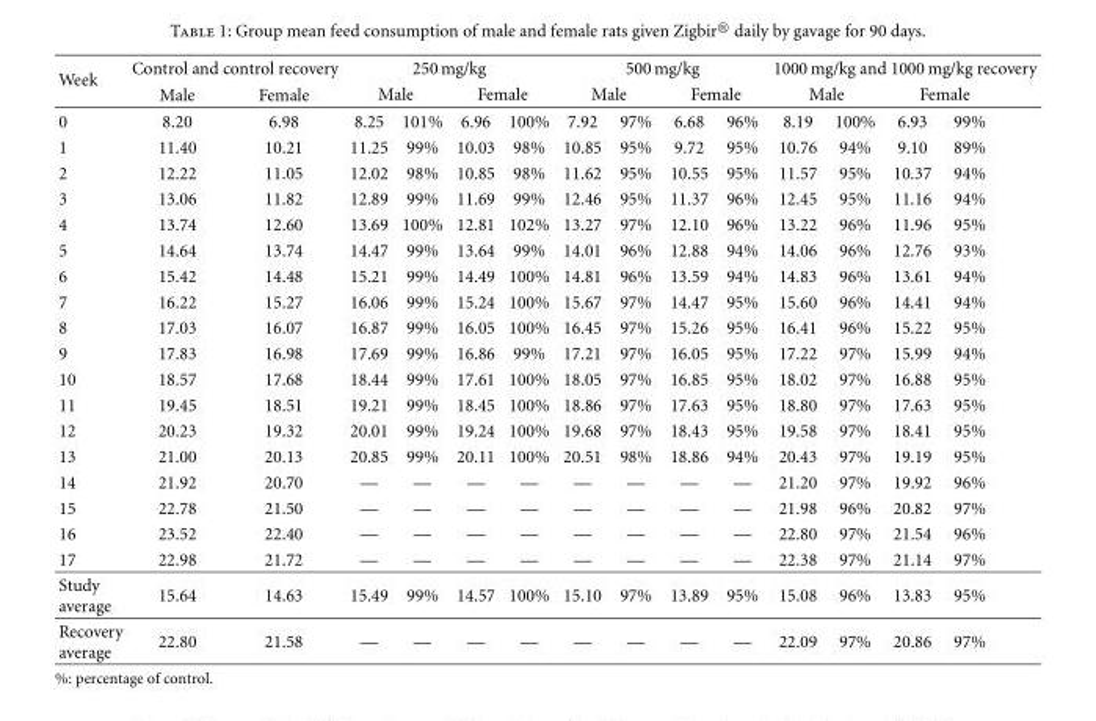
<table><thead><tr><td rowspan="3">Week 0</td><td colspan="2">Control and control recovery</td><td colspan="4">250 mg/kg</td><td colspan="4">500 mg/kg</td><td colspan="4">1000 mg/kg and 1000 mg/kg recovery</td></tr><tr><td rowspan="2">Male 8.20</td><td rowspan="2">Female 6.98</td><td colspan="2">Male</td><td colspan="2">Female</td><td colspan="2">Male</td><td colspan="2">Female</td><td colspan="2">Male</td><td colspan="2">Female</td></tr><tr><td>8.25</td><td>101%</td><td>6.96</td><td>100%</td><td>7.92</td><td>97%</td><td>6.68</td><td>96%</td><td>8.19</td><td>100%</td><td>6.93</td><td>99%</td></tr></thead><tbody><tr><td>1</td><td>11.40</td><td>10.21</td><td>11.25</td><td>99%</td><td>10.03</td><td>98%</td><td>10.85</td><td>95%</td><td>9.72</td><td>95%</td><td>10.76</td><td>94%</td><td>9.10</td><td>89%</td></tr><tr><td>2</td><td>12.22</td><td>11.05</td><td>12.02</td><td>98%</td><td>10.85</td><td>98%</td><td>11.62</td><td>95%</td><td>10.55</td><td>95%</td><td>11.57</td><td>95%</td><td>10.37</td><td>94%</td></tr><tr><td>3</td><td>13.06</td><td>11.82</td><td>12.89</td><td>99%</td><td>11.69</td><td>99%</td><td>12.46</td><td>95%</td><td>11.37</td><td>96%</td><td>12.45</td><td>95%</td><td>11.16</td><td>94%</td></tr><tr><td>4</td><td>13.74</td><td>12.60</td><td>13.69</td><td>100%</td><td>12.81</td><td>102%</td><td>13.27</td><td>97%</td><td>12.10</td><td>96%</td><td>13.22</td><td>96%</td><td>11.96</td><td>95%</td></tr><tr><td>5</td><td>14.64</td><td>13.74</td><td>14.47</td><td>99%</td><td>13.64</td><td>99%</td><td>14.01</td><td>96%</td><td>12.88</td><td>94%</td><td>14.06</td><td>96%</td><td>12.76</td><td>93%</td></tr><tr><td>6</td><td>15.42</td><td>14.48</td><td>15.21</td><td>99%</td><td>14.49</td><td>100%</td><td>14.81</td><td>96%</td><td>13.59</td><td>94%</td><td>14.83</td><td>96%</td><td>13.61</td><td>94%</td></tr><tr><td>7</td><td>16.22</td><td>15.27</td><td>16.06</td><td>99%</td><td>15.24</td><td>100%</td><td>15.67</td><td>97%</td><td>14.47</td><td>95%</td><td>15.60</td><td>96%</td><td>14.41</td><td>94%</td></tr><tr><td>8</td><td>17.03</td><td>16.07</td><td>16.87</td><td>99%</td><td>16.05</td><td>100%</td><td>16.45</td><td>97%</td><td>15.26</td><td>95%</td><td>16.41</td><td>96%</td><td>15.22</td><td>95%</td></tr><tr><td>9</td><td>17.83</td><td>16.98</td><td>17.69</td><td>99%</td><td>16.86</td><td>99%</td><td>17.21</td><td>97%</td><td>16.05</td><td>95%</td><td>17.22</td><td>97%</td><td>15.99</td><td>94%</td></tr><tr><td>10</td><td>18.57</td><td>17.68</td><td>18.44</td><td>99%</td><td>17.61</td><td>100%</td><td>18.05</td><td>97%</td><td>16.85</td><td>95%</td><td>18.02</td><td>97%</td><td>16.88</td><td>95%</td></tr><tr><td>11</td><td>19.45</td><td>18.51</td><td>19.21</td><td>99%</td><td>18.45</td><td>100%</td><td>18.86</td><td>97%</td><td>17.63</td><td>95%</td><td>18.80</td><td>97%</td><td>17.63</td><td>95%</td></tr><tr><td>12</td><td>20.23</td><td>19.32</td><td>20.01</td><td>99%</td><td>19.24</td><td>100%</td><td>19.68</td><td>97%</td><td>18.43</td><td>95%</td><td>19.58</td><td>97%</td><td>18.41</td><td>95%</td></tr><tr><td>13</td><td>21.00</td><td>20.13</td><td>20.85</td><td>99%</td><td>20.11</td><td>100%</td><td>20.51</td><td>98%</td><td>18.86</td><td>94%</td><td>20.43</td><td>97%</td><td>19.19</td><td>95%</td></tr><tr><td>14</td><td>21.92</td><td>20.70</td><td>—</td><td>—</td><td>—</td><td>—</td><td>—</td><td>—</td><td>—</td><td>—</td><td>21.20</td><td>97%</td><td>19.92</td><td>96%</td></tr><tr><td>15</td><td>22.78</td><td>21.50</td><td>—</td><td>—</td><td>—</td><td>—</td><td>—</td><td>—</td><td>—</td><td>—</td><td>21.98</td><td>96%</td><td>20.82</td><td>97%</td></tr><tr><td>16</td><td>23.52</td><td>22.40</td><td>—</td><td>—</td><td>—</td><td>—</td><td>—</td><td>—</td><td>—</td><td>—</td><td>22.80</td><td>97%</td><td>21.54</td><td>96%</td></tr><tr><td>17</td><td>22.98</td><td>21.72</td><td>—</td><td>—</td><td>—</td><td>—</td><td>—</td><td>—</td><td>—</td><td>—</td><td>22.38</td><td>97%</td><td>21.14</td><td>97%</td></tr><tr><td>Study average</td><td>15.64</td><td>14.63</td><td>15.49</td><td>99%</td><td>14.57</td><td>100%</td><td>15.10</td><td>97%</td><td>13.89</td><td>95%</td><td>15.08</td><td>96%</td><td>13.83</td><td>95%</td></tr><tr><td>Recovery average</td><td>22.80</td><td>21.58</td><td>—</td><td>—</td><td>—</td><td>—</td><td>—</td><td>—</td><td>—</td><td>—</td><td>22.09</td><td>97%</td><td>20.86</td><td>97%</td></tr></tbody></table>